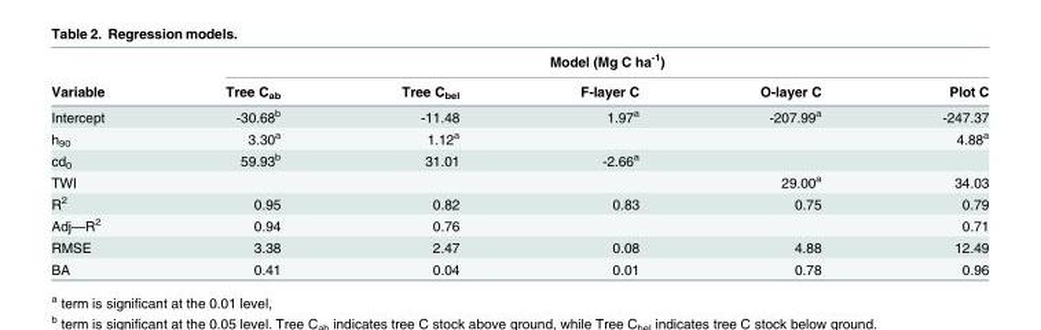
<table><thead><tr><td rowspan="2">Variable</td><td colspan="5">Model (Mg C ha<sup>-1</sup>)</td></tr><tr><td>Tree C<sub>ab</sub></td><td>Tree C<sub>bel</sub></td><td>F-layer C</td><td>O-layer C</td><td>Plot C</td></tr></thead><tbody><tr><td>Intercept</td><td>-30.68<sup>b</sup></td><td>-11.48</td><td>1.97<sup>a</sup></td><td>-207.99<sup>a</sup></td><td>-247.37</td></tr><tr><td>h<sub>90</sub></td><td>3.30<sup>a</sup></td><td>1.12<sup>a</sup></td><td></td><td></td><td>4.88<sup>a</sup></td></tr><tr><td>cd<sub>0</sub></td><td>59.93<sup>b</sup></td><td>31.01</td><td>-2.66<sup>a</sup></td><td></td><td></td></tr><tr><td>TWI</td><td></td><td></td><td></td><td>29.00<sup>a</sup></td><td>34.03</td></tr><tr><td>R<sup>2</sup></td><td>0.95</td><td>0.82</td><td>0.83</td><td>0.75</td><td>0.79</td></tr><tr><td>Adj—R<sup>2</sup></td><td>0.94</td><td>0.76</td><td></td><td></td><td>0.71</td></tr><tr><td>RMSE</td><td>3.38</td><td>2.47</td><td>0.08</td><td>4.88</td><td>12.49</td></tr><tr><td>BA</td><td>0.41</td><td>0.04</td><td>0.01</td><td>0.78</td><td>0.96</td></tr></tbody></table>